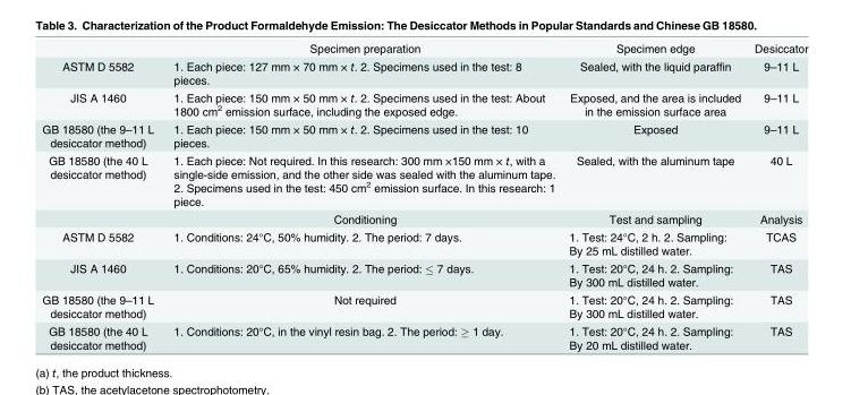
<table><thead><tr><td></td><td>Specimen preparation</td><td>Specimen edge</td><td>Desiccator</td></tr></thead><tbody><tr><td>ASTM D 5582</td><td>1. Each piece: 127 mm × 70 mm × t. 2. Specimens used in the test: 8 pieces.</td><td>Sealed, with the liquid paraffin</td><td>9–11 L</td></tr><tr><td>JIS A 1460</td><td>1. Each piece: 150 mm × 50 mm × t. 2. Specimens used in the test: About 1800 cm<sup>2</sup> emission surface, including the exposed edge.</td><td>Exposed, and the area is included in the emission surface area</td><td>9–11 L</td></tr><tr><td>GB 18580 (the 9–11 L desiccator method)</td><td>1. Each piece: 150 mm × 50 mm × t. 2. Specimens used in the test: 10 pieces.</td><td>Exposed</td><td>9–11 L</td></tr><tr><td rowspan="2">GB 18580 (the 40 L desiccator method)</td><td>1. Each piece: Not required. In this research: 300 mm ×150 mm × t, with a single-side emission, and the other side was sealed with the aluminum tape. 2. Specimens used in the test: 450 cm<sup>2</sup> emission surface. In this research: 1 piece.</td><td>Sealed, with the aluminum tape</td><td>40 L</td></tr><tr><td>Conditioning</td><td>Test and sampling</td><td>Analysis</td></tr><tr><td>ASTM D 5582</td><td>1. Conditions: 24°C, 50% humidity. 2. The period: 7 days.</td><td>1. Test: 24°C, 2 h. 2. Sampling: By 25 mL distilled water.</td><td>TCAS</td></tr><tr><td>JIS A 1460</td><td>1. Conditions: 20°C, 65% humidity. 2. The period: ≤ 7 days.</td><td>1. Test: 20°C, 24 h. 2. Sampling: By 300 mL distilled water.</td><td>TAS</td></tr><tr><td>GB 18580 (the 9–11 L desiccator method)</td><td>Not required</td><td>1. Test: 20°C, 24 h. 2. Sampling: By 300 mL distilled water.</td><td>TAS</td></tr><tr><td>GB 18580 (the 40 L desiccator method)</td><td>1. Conditions: 20°C, in the vinyl resin bag. 2. The period: ≥ 1 day.</td><td>1. Test: 20°C, 24 h. 2. Sampling: By 20 mL distilled water.</td><td>TAS</td></tr></tbody></table>